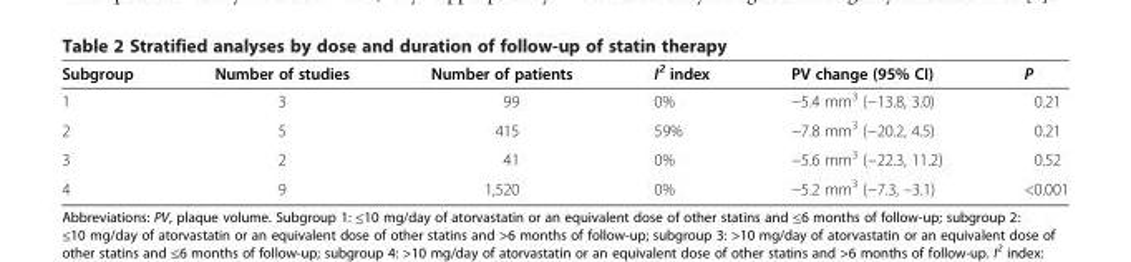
<table><thead><tr><td>Subgroup</td><td>Number of studies</td><td>Number of patients</td><td>I<sup>2</sup> index</td><td>PV change (95% CI)</td><td>P</td></tr></thead><tbody><tr><td>1</td><td>3</td><td>99</td><td>0%</td><td>−5.4 mm<sup>3</sup> (−13.8, 3.0)</td><td>0.21</td></tr><tr><td>2</td><td>5</td><td>415</td><td>59%</td><td>−7.8 mm<sup>3</sup> (−20.2, 4.5)</td><td>0.21</td></tr><tr><td>3</td><td>2</td><td>41</td><td>0%</td><td>−5.6 mm<sup>3</sup> (−22.3, 11.2)</td><td>0.52</td></tr><tr><td>4</td><td>9</td><td>1,520</td><td>0%</td><td>−5.2 mm<sup>3</sup> (−7.3, –3.1)</td><td>&lt;0.001</td></tr></tbody></table>